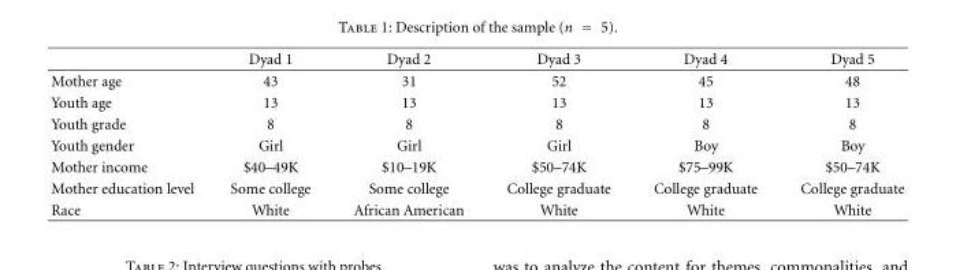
<table><thead><tr><td></td><td>Dyad 1</td><td>Dyad 2</td><td>Dyad 3</td><td>Dyad 4</td><td>Dyad 5</td></tr></thead><tbody><tr><td>Mother age</td><td>43</td><td>31</td><td>52</td><td>45</td><td>48</td></tr><tr><td>Youth age</td><td>13</td><td>13</td><td>13</td><td>13</td><td>13</td></tr><tr><td>Youth grade</td><td>8</td><td>8</td><td>8</td><td>8</td><td>8</td></tr><tr><td>Youth gender</td><td>Girl</td><td>Girl</td><td>Girl</td><td>Boy</td><td>Boy</td></tr><tr><td>Mother income</td><td>$40–49K</td><td>$10–19K</td><td>$50–74K</td><td>$75–99K</td><td>$50–74K</td></tr><tr><td>Mother education level</td><td>Some college</td><td>Some college</td><td>College graduate</td><td>College graduate</td><td>College graduate</td></tr><tr><td>Race</td><td>White</td><td>African American</td><td>White</td><td>White</td><td>White</td></tr></tbody></table>